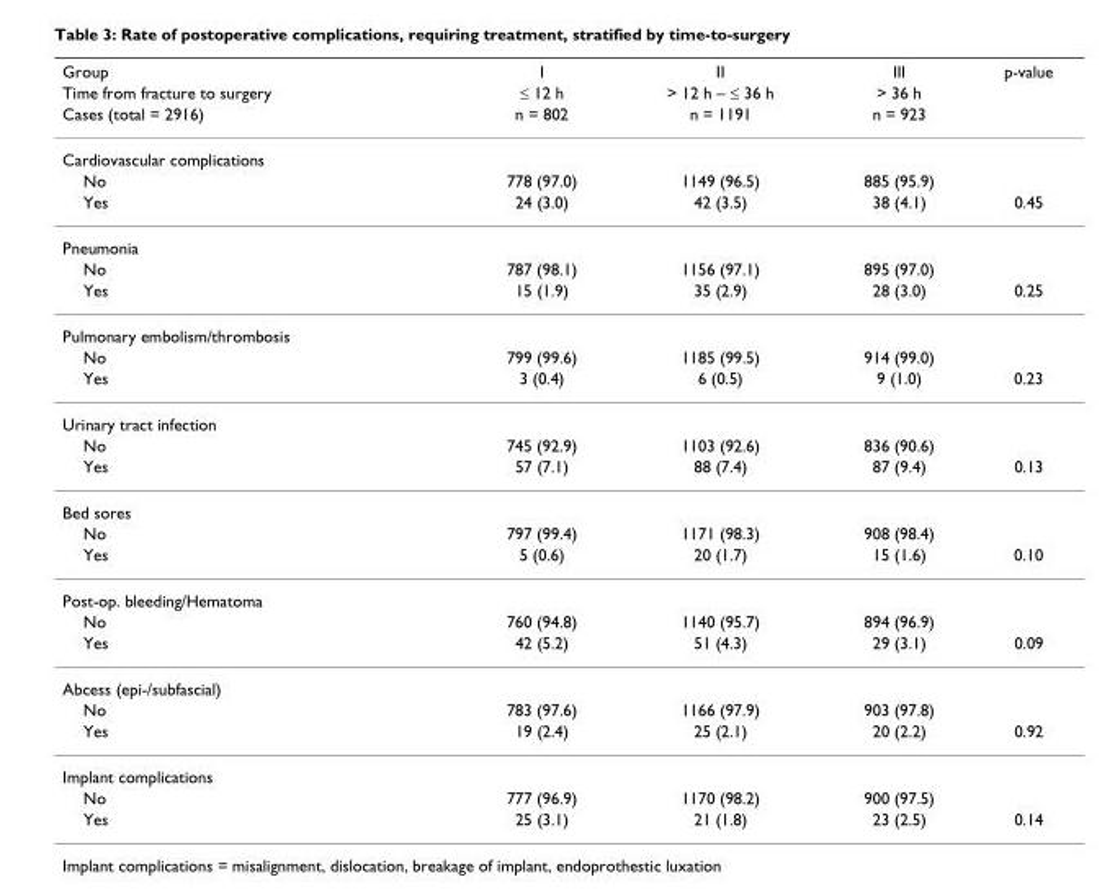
<table><thead><tr><td rowspan="3">Group Time from fracture to surgery Cases (total = 2916)</td><td rowspan="3">I ≤ 12 h n = 802</td><td rowspan="3">II &gt; 12 h – ≤ 36 h n = 1191</td><td rowspan="3">III &gt; 36 h n = 923</td><td rowspan="3">p-value</td></tr><tr></tr><tr></tr></thead><tbody><tr><td colspan="5">Cardiovascular complications</td></tr><tr><td>No</td><td>778 (97.0)</td><td>1149 (96.5)</td><td>885 (95.9)</td><td></td></tr><tr><td>Yes</td><td>24 (3.0)</td><td>42 (3.5)</td><td>38 (4.1)</td><td>0.45</td></tr><tr><td colspan="5">Pneumonia</td></tr><tr><td>No</td><td>787 (98.1)</td><td>1156 (97.1)</td><td>895 (97.0)</td><td></td></tr><tr><td>Yes</td><td>15 (1.9)</td><td>35 (2.9)</td><td>28 (3.0)</td><td>0.25</td></tr><tr><td colspan="5">Pulmonary embolism/thrombosis</td></tr><tr><td>No</td><td>799 (99.6)</td><td>1185 (99.5)</td><td>914 (99.0)</td><td></td></tr><tr><td>Yes</td><td>3 (0.4)</td><td>6 (0.5)</td><td>9 (1.0)</td><td>0.23</td></tr><tr><td colspan="5">Urinary tract infection</td></tr><tr><td>No</td><td>745 (92.9)</td><td>1103 (92.6)</td><td>836 (90.6)</td><td></td></tr><tr><td>Yes</td><td>57 (7.1)</td><td>88 (7.4)</td><td>87 (9.4)</td><td>0.13</td></tr><tr><td colspan="5">Bed sores</td></tr><tr><td>No</td><td>797 (99.4)</td><td>1171 (98.3)</td><td>908 (98.4)</td><td></td></tr><tr><td>Yes</td><td>5 (0.6)</td><td>20 (1.7)</td><td>15 (1.6)</td><td>0.10</td></tr><tr><td colspan="5">Post-op. bleeding/Hematoma</td></tr><tr><td>No</td><td>760 (94.8)</td><td>1140 (95.7)</td><td>894 (96.9)</td><td></td></tr><tr><td>Yes</td><td>42 (5.2)</td><td>51 (4.3)</td><td>29 (3.1)</td><td>0.09</td></tr><tr><td colspan="5">Abcess (epi-/subfascial)</td></tr><tr><td>No</td><td>783 (97.6)</td><td>1166 (97.9)</td><td>903 (97.8)</td><td></td></tr><tr><td>Yes</td><td>19 (2.4)</td><td>25 (2.1)</td><td>20 (2.2)</td><td>0.92</td></tr><tr><td colspan="5">Implant complications</td></tr><tr><td>No</td><td>777 (96.9)</td><td>1170 (98.2)</td><td>900 (97.5)</td><td></td></tr><tr><td>Yes</td><td>25 (3.1)</td><td>21 (1.8)</td><td>23 (2.5)</td><td>0.14</td></tr></tbody></table>